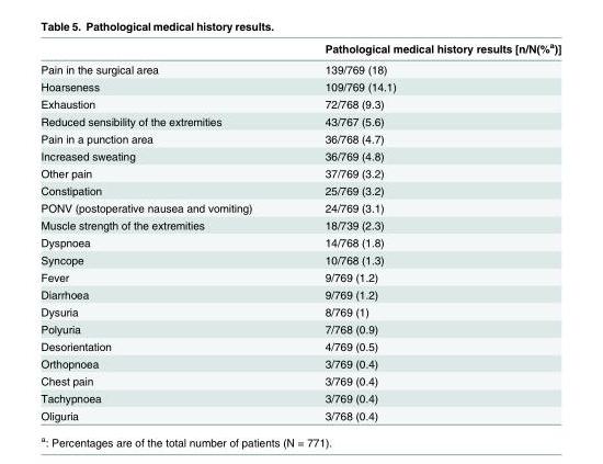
<table><thead><tr><td></td><td>Pathological medical history results [n/N(%<sup>a</sup>)]</td></tr></thead><tbody><tr><td>Pain in the surgical area</td><td>139/769 (18)</td></tr><tr><td>Hoarseness</td><td>109/769 (14.1)</td></tr><tr><td>Exhaustion</td><td>72/768 (9.3)</td></tr><tr><td>Reduced sensibility of the extremities</td><td>43/767 (5.6)</td></tr><tr><td>Pain in a punction area</td><td>36/768 (4.7)</td></tr><tr><td>Increased sweating</td><td>36/769 (4.8)</td></tr><tr><td>Other pain</td><td>37/769 (3.2)</td></tr><tr><td>Constipation</td><td>25/769 (3.2)</td></tr><tr><td>PONV (postoperative nausea and vomiting)</td><td>24/769 (3.1)</td></tr><tr><td>Muscle strength of the extremities</td><td>18/739 (2.3)</td></tr><tr><td>Dyspnoea</td><td>14/768 (1.8)</td></tr><tr><td>Syncope</td><td>10/768 (1.3)</td></tr><tr><td>Fever</td><td>9/769 (1.2)</td></tr><tr><td>Diarrhoea</td><td>9/769 (1.2)</td></tr><tr><td>Dysuria</td><td>8/769 (1)</td></tr><tr><td>Polyuria</td><td>7/768 (0.9)</td></tr><tr><td>Desorientation</td><td>4/769 (0.5)</td></tr><tr><td>Orthopnoea</td><td>3/769 (0.4)</td></tr><tr><td>Chest pain</td><td>3/769 (0.4)</td></tr><tr><td>Tachypnoea</td><td>3/769 (0.4)</td></tr><tr><td>Oliguria</td><td>3/768 (0.4)</td></tr></tbody></table>